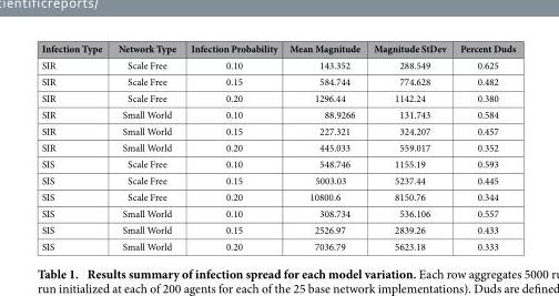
<table><thead><tr><td>Infection Type</td><td>Network Type</td><td>Infection Probability</td><td>Mean Magnitude</td><td>Magnitude StDev</td><td>Percent Duds</td></tr></thead><tbody><tr><td>SIR</td><td>Scale Free</td><td>0.10</td><td>143.352</td><td>288.549</td><td>0.625</td></tr><tr><td>SIR</td><td>Scale Free</td><td>0.15</td><td>584.744</td><td>774.628</td><td>0.482</td></tr><tr><td>SIR</td><td>Scale Free</td><td>0.20</td><td>1296.44</td><td>1142.24</td><td>0.380</td></tr><tr><td>SIR</td><td>Small World</td><td>0.10</td><td>88.9266</td><td>131.743</td><td>0.584</td></tr><tr><td>SIR</td><td>Small World</td><td>0.15</td><td>227.321</td><td>324.207</td><td>0.457</td></tr><tr><td>SIR</td><td>Small World</td><td>0.20</td><td>445.033</td><td>559.017</td><td>0.352</td></tr><tr><td>SIS</td><td>Scale Free</td><td>0.10</td><td>548.746</td><td>1155.19</td><td>0.593</td></tr><tr><td>SIS</td><td>Scale Free</td><td>0.15</td><td>5003.03</td><td>5237.44</td><td>0.445</td></tr><tr><td>SIS</td><td>Scale Free</td><td>0.20</td><td>10800.6</td><td>8150.76</td><td>0.344</td></tr><tr><td>SIS</td><td>Small World</td><td>0.10</td><td>308.734</td><td>536.106</td><td>0.557</td></tr><tr><td>SIS</td><td>Small World</td><td>0.15</td><td>2526.97</td><td>2839.26</td><td>0.433</td></tr><tr><td>SIS</td><td>Small World</td><td>0.20</td><td>7036.79</td><td>5623.18</td><td>0.333</td></tr></tbody></table>